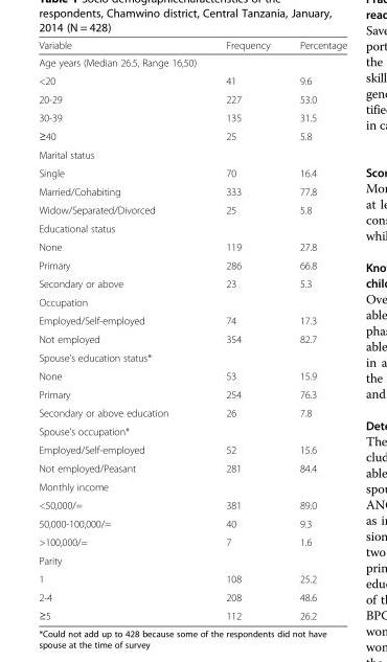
<table><thead><tr><td>Variable</td><td>Frequency</td><td>Percentage</td></tr></thead><tbody><tr><td colspan="3">Age years (Median 26.5, Range 16,50)</td></tr><tr><td>&lt;20</td><td>41</td><td>9.6</td></tr><tr><td>20-29</td><td>227</td><td>53.0</td></tr><tr><td>30-39</td><td>135</td><td>31.5</td></tr><tr><td>≥40</td><td>25</td><td>5.8</td></tr><tr><td colspan="3">Marital status</td></tr><tr><td>Single</td><td>70</td><td>16.4</td></tr><tr><td>Married/Cohabiting</td><td>333</td><td>77.8</td></tr><tr><td>Widow/Separated/Divorced</td><td>25</td><td>5.8</td></tr><tr><td colspan="3">Educational status</td></tr><tr><td>None</td><td>119</td><td>27.8</td></tr><tr><td>Primary</td><td>286</td><td>66.8</td></tr><tr><td>Secondary or above</td><td>23</td><td>5.3</td></tr><tr><td colspan="3">Occupation</td></tr><tr><td>Employed/Self-employed</td><td>74</td><td>17.3</td></tr><tr><td>Not employed</td><td>354</td><td>82.7</td></tr><tr><td colspan="3">Spouse’s education status*</td></tr><tr><td>None</td><td>53</td><td>15.9</td></tr><tr><td>Primary</td><td>254</td><td>76.3</td></tr><tr><td>Secondary or above education</td><td>26</td><td>7.8</td></tr><tr><td colspan="3">Spouse’s occupation*</td></tr><tr><td>Employed/Self-employed</td><td>52</td><td>15.6</td></tr><tr><td>Not employed/Peasant</td><td>281</td><td>84.4</td></tr><tr><td colspan="3">Monthly income</td></tr><tr><td>&lt;50,000/=</td><td>381</td><td>89.0</td></tr><tr><td>50,000-100,000/=</td><td>40</td><td>9.3</td></tr><tr><td>&gt;100,000/=</td><td>7</td><td>1.6</td></tr><tr><td colspan="3">Parity</td></tr><tr><td>1</td><td>108</td><td>25.2</td></tr><tr><td>2-4</td><td>208</td><td>48.6</td></tr><tr><td>≥5</td><td>112</td><td>26.2</td></tr></tbody></table>